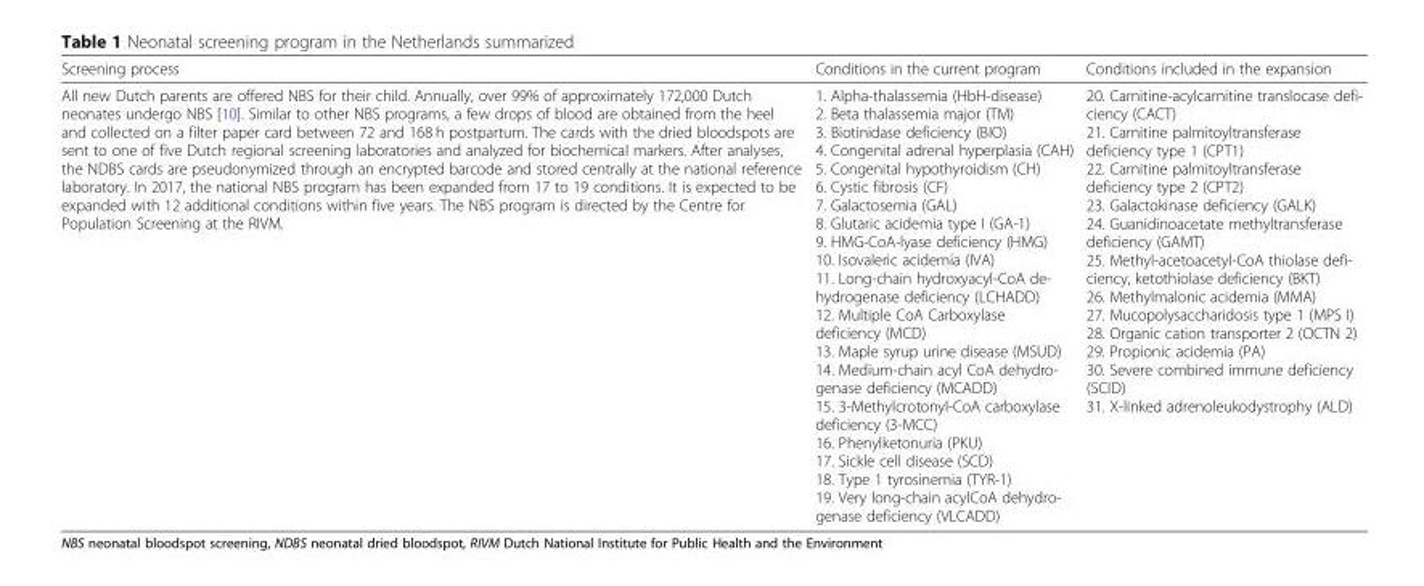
<table><thead><tr><td>Screening process</td><td>Conditions in the current program</td><td>Conditions included in the expansion</td></tr></thead><tbody><tr><td>All new Dutch parents are offered NBS for their child. Annually, over 99% of approximately 172,000 Dutch neonates undergo NBS [10]. Similar to other NBS programs, a few drops of blood are obtained from the heel and collected on a filter paper card between 72 and 168 h postpartum. The cards with the dried bloodspots are sent to one of five Dutch regional screening laboratories and analyzed for biochemical markers. After analyses, the NDBS cards are pseudonymized through an encrypted barcode and stored centrally at the national reference laboratory. In 2017, the national NBS program has been expanded from 17 to 19 conditions. It is expected to be expanded with 12 additional conditions within five years. The NBS program is directed by the Centre for Population Screening at the RIVM.</td><td>1. Alpha-thalassemia (HbH-disease) 2. Beta thalassemia major (TM) 3. Biotinidase deficiency (BIO) 4. Congenital adrenal hyperplasia (CAH) 5. Congenital hypothyroidism (CH) 6. Cystic fibrosis (CF) 7. Galactosemia (GAL) 8. Glutaric acidemia type I (GA-1) 9. HMG-CoA-lyase deficiency (HMG) 10. Isovaleric acidemia (IVA) 11. Long-chain hydroxyacyl-CoA de- hydrogenase deficiency (LCHADD) 12. Multiple CoA Carboxylase deficiency (MCD) 13. Maple syrup urine disease (MSUD) 14. Medium-chain acyl CoA dehydro- genase deficiency (MCADD) 15. 3-Methylcrotonyl-CoA carboxylase deficiency (3-MCC) 16. Phenylketonuria (PKU) 17. Sickle cell disease (SCD) 18. Type 1 tyrosinemia (TYR-1) 19. Very long-chain acylCoA dehydro- genase deficiency (VLCADD)</td><td>20. Carnitine-acylcarnitine translocase defi- ciency (CACT) 21. Carnitine palmitoyltransferase deficiency type 1 (CPT1) 22. Carnitine palmitoyltransferase deficiency type 2 (CPT2) 23. Galactokinase deficiency (GALK) 24. Guanidinoacetate methyltransferase deficiency (GAMT) 25. Methyl-acetoacetyl-CoA thiolase defi- ciency, ketothiolase deficiency (BKT) 26. Methylmalonic acidemia (MMA) 27. Mucopolysaccharidosis type 1 (MPS I) 28. Organic cation transporter 2 (OCTN 2) 29. Propionic acidemia (PA) 30. Severe combined immune deficiency (SCID) 31. X-linked adrenoleukodystrophy (ALD)</td></tr></tbody></table>